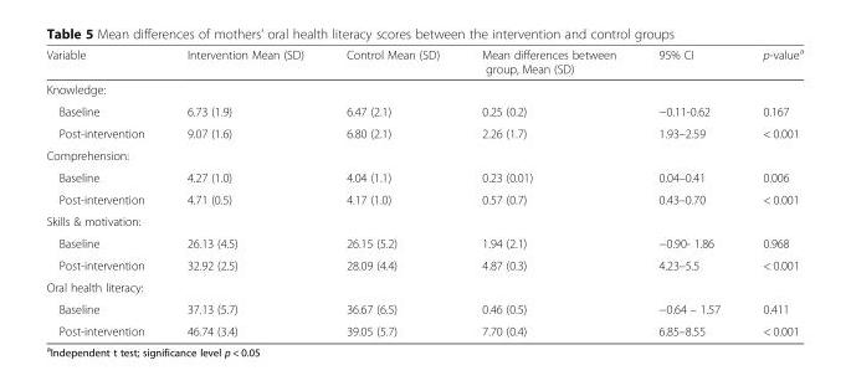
<table><thead><tr><td>Variable</td><td>Intervention Mean (SD)</td><td>Control Mean (SD)</td><td>Mean differences between group, Mean (SD)</td><td>95% CI</td><td>p-value<sup>a</sup></td></tr></thead><tbody><tr><td colspan="6">Knowledge:</td></tr><tr><td>Baseline</td><td>6.73 (1.9)</td><td>6.47 (2.1)</td><td>0.25 (0.2)</td><td>−0.11-0.62</td><td>0.167</td></tr><tr><td>Post-intervention</td><td>9.07 (1.6)</td><td>6.80 (2.1)</td><td>2.26 (1.7)</td><td>1.93–2.59</td><td>&lt; 0.001</td></tr><tr><td colspan="6">Comprehension:</td></tr><tr><td>Baseline</td><td>4.27 (1.0)</td><td>4.04 (1.1)</td><td>0.23 (0.01)</td><td>0.04–0.41</td><td>0.006</td></tr><tr><td>Post-intervention</td><td>4.71 (0.5)</td><td>4.17 (1.0)</td><td>0.57 (0.7)</td><td>0.43–0.70</td><td>&lt; 0.001</td></tr><tr><td colspan="6">Skills &amp; motivation:</td></tr><tr><td>Baseline</td><td>26.13 (4.5)</td><td>26.15 (5.2)</td><td>1.94 (2.1)</td><td>−0.90- 1.86</td><td>0.968</td></tr><tr><td>Post-intervention</td><td>32.92 (2.5)</td><td>28.09 (4.4)</td><td>4.87 (0.3)</td><td>4.23–5.5</td><td>&lt; 0.001</td></tr><tr><td colspan="6">Oral health literacy:</td></tr><tr><td>Baseline</td><td>37.13 (5.7)</td><td>36.67 (6.5)</td><td>0.46 (0.5)</td><td>−0.64 – 1.57</td><td>0.411</td></tr><tr><td>Post-intervention</td><td>46.74 (3.4)</td><td>39.05 (5.7)</td><td>7.70 (0.4)</td><td>6.85–8.55</td><td>&lt; 0.001</td></tr></tbody></table>